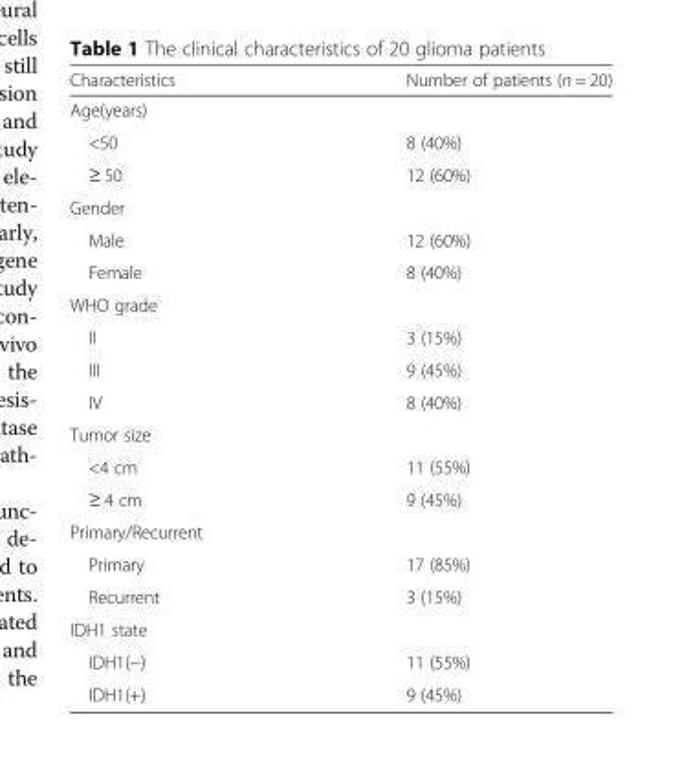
<table><thead><tr><td>Characteristics</td><td>Number of patients (n = 20)</td></tr></thead><tbody><tr><td colspan="2">Age(years)</td></tr><tr><td>&lt;50</td><td>8 (40%)</td></tr><tr><td>≥ 50</td><td>12 (60%)</td></tr><tr><td colspan="2">Gender</td></tr><tr><td>Male</td><td>12 (60%)</td></tr><tr><td>Female</td><td>8 (40%)</td></tr><tr><td colspan="2">WHO grade</td></tr><tr><td>II</td><td>3 (15%)</td></tr><tr><td>III</td><td>9 (45%)</td></tr><tr><td>IV</td><td>8 (40%)</td></tr><tr><td colspan="2">Tumor size</td></tr><tr><td>&lt;4 cm</td><td>11 (55%)</td></tr><tr><td>≥ 4 cm</td><td>9 (45%)</td></tr><tr><td colspan="2">Primary/Recurrent</td></tr><tr><td>Primary</td><td>17 (85%)</td></tr><tr><td>Recurrent</td><td>3 (15%)</td></tr><tr><td colspan="2">IDH1 state</td></tr><tr><td>IDH1(−)</td><td>11 (55%)</td></tr><tr><td>IDH1(+)</td><td>9 (45%)</td></tr></tbody></table>